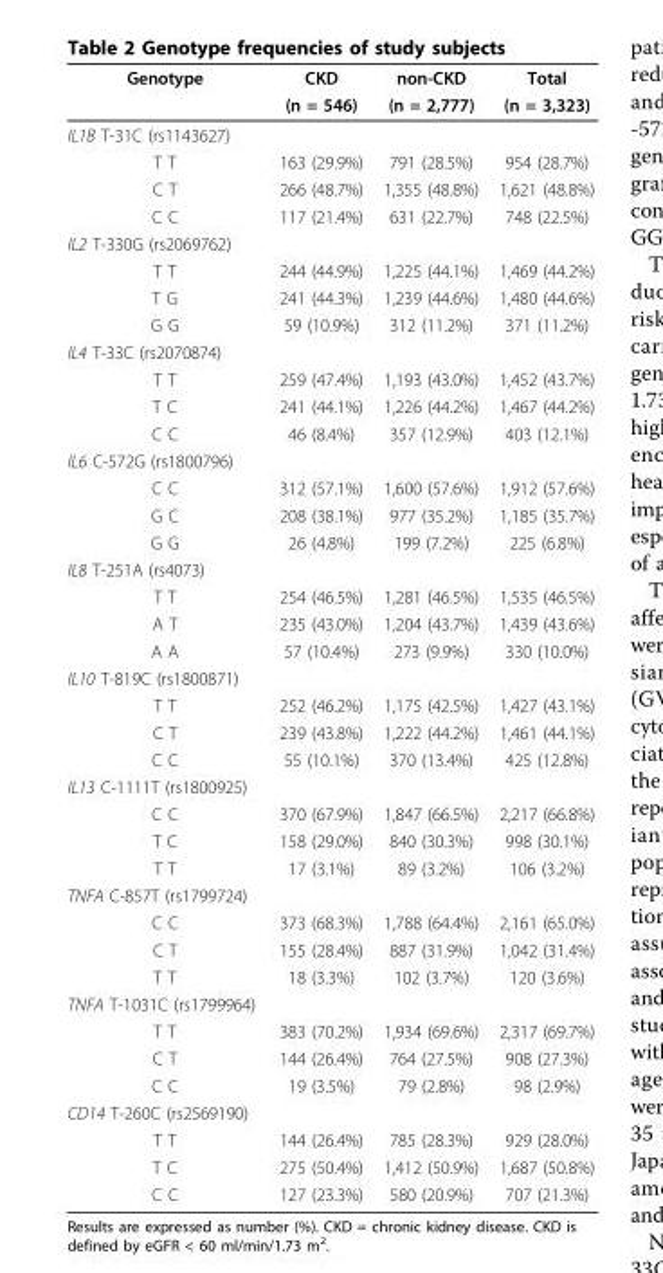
<table><thead><tr><td rowspan="2">Genotype</td><td rowspan="2">CKD (n = 546)</td><td rowspan="2">non-CKD (n = 2,777)</td><td rowspan="2">Total (n = 3,323)</td></tr><tr></tr></thead><tbody><tr><td colspan="4">IL1B T-31C (rs1143627)</td></tr><tr><td>T T</td><td>163 (29.9%)</td><td>791 (28.5%)</td><td>954 (28.7%)</td></tr><tr><td>C T</td><td>266 (48.7%)</td><td>1,355 (48.8%)</td><td>1,621 (48.8%)</td></tr><tr><td>C C</td><td>117 (21.4%)</td><td>631 (22.7%)</td><td>748 (22.5%)</td></tr><tr><td colspan="4">IL2 T-330G (rs2069762)</td></tr><tr><td>T T</td><td>244 (44.9%)</td><td>1,225 (44.1%)</td><td>1,469 (44.2%)</td></tr><tr><td>T G</td><td>241 (44.3%)</td><td>1,239 (44.6%)</td><td>1,480 (44.6%)</td></tr><tr><td>G G</td><td>59 (10.9%)</td><td>312 (11.2%)</td><td>371 (11.2%)</td></tr><tr><td colspan="4">IL4 T-33C (rs2070874)</td></tr><tr><td>T T</td><td>259 (47.4%)</td><td>1,193 (43.0%)</td><td>1,452 (43.7%)</td></tr><tr><td>T C</td><td>241 (44.1%)</td><td>1,226 (44.2%)</td><td>1,467 (44.2%)</td></tr><tr><td>C C</td><td>46 (8.4%)</td><td>357 (12.9%)</td><td>403 (12.1%)</td></tr><tr><td colspan="4">IL6 C-572G (rs1800796)</td></tr><tr><td>C C</td><td>312 (57.1%)</td><td>1,600 (57.6%)</td><td>1,912 (57.6%)</td></tr><tr><td>G C</td><td>208 (38.1%)</td><td>977 (35.2%)</td><td>1,185 (35.7%)</td></tr><tr><td>G G</td><td>26 (4.8%)</td><td>199 (7.2%)</td><td>225 (6.8%)</td></tr><tr><td colspan="4">IL8 T-251A (rs4073)</td></tr><tr><td>T T</td><td>254 (46.5%)</td><td>1,281 (46.5%)</td><td>1,535 (46.5%)</td></tr><tr><td>A T</td><td>235 (43.0%)</td><td>1,204 (43.7%)</td><td>1,439 (43.6%)</td></tr><tr><td>A A</td><td>57 (10.4%)</td><td>273 (9.9%)</td><td>330 (10.0%)</td></tr><tr><td colspan="4">IL10 T-819C (rs1800871)</td></tr><tr><td>T T</td><td>252 (46.2%)</td><td>1,175 (42.5%)</td><td>1,427 (43.1%)</td></tr><tr><td>C T</td><td>239 (43.8%)</td><td>1,222 (44.2%)</td><td>1,461 (44.1%)</td></tr><tr><td>C C</td><td>55 (10.1%)</td><td>370 (13.4%)</td><td>425 (12.8%)</td></tr><tr><td colspan="4">IL13 C-1111T (rs1800925)</td></tr><tr><td>C C</td><td>370 (67.9%)</td><td>1,847 (66.5%)</td><td>2,217 (66.8%)</td></tr><tr><td>T C</td><td>158 (29.0%)</td><td>840 (30.3%)</td><td>998 (30.1%)</td></tr><tr><td>T T</td><td>17 (3.1%)</td><td>89 (3.2%)</td><td>106 (3.2%)</td></tr><tr><td colspan="4">TNFA C-857T (rs1799724)</td></tr><tr><td>C C</td><td>373 (68.3%)</td><td>1,788 (64.4%)</td><td>2,161 (65.0%)</td></tr><tr><td>C T</td><td>155 (28.4%)</td><td>887 (31.9%)</td><td>1,042 (31.4%)</td></tr><tr><td>T T</td><td>18 (3.3%)</td><td>102 (3.7%)</td><td>120 (3.6%)</td></tr><tr><td colspan="4">TNFA T-1031C (rs1799964)</td></tr><tr><td>T T</td><td>383 (70.2%)</td><td>1,934 (69.6%)</td><td>2,317 (69.7%)</td></tr><tr><td>C T</td><td>144 (26.4%)</td><td>764 (27.5%)</td><td>908 (27.3%)</td></tr><tr><td>C C</td><td>19 (3.5%)</td><td>79 (2.8%)</td><td>98 (2.9%)</td></tr><tr><td colspan="4">CD14 T-260C (rs2569190)</td></tr><tr><td>T T</td><td>144 (26.4%)</td><td>785 (28.3%)</td><td>929 (28.0%)</td></tr><tr><td>T C</td><td>275 (50.4%)</td><td>1,412 (50.9%)</td><td>1,687 (50.8%)</td></tr><tr><td>C C</td><td>127 (23.3%)</td><td>580 (20.9%)</td><td>707 (21.3%)</td></tr></tbody></table>